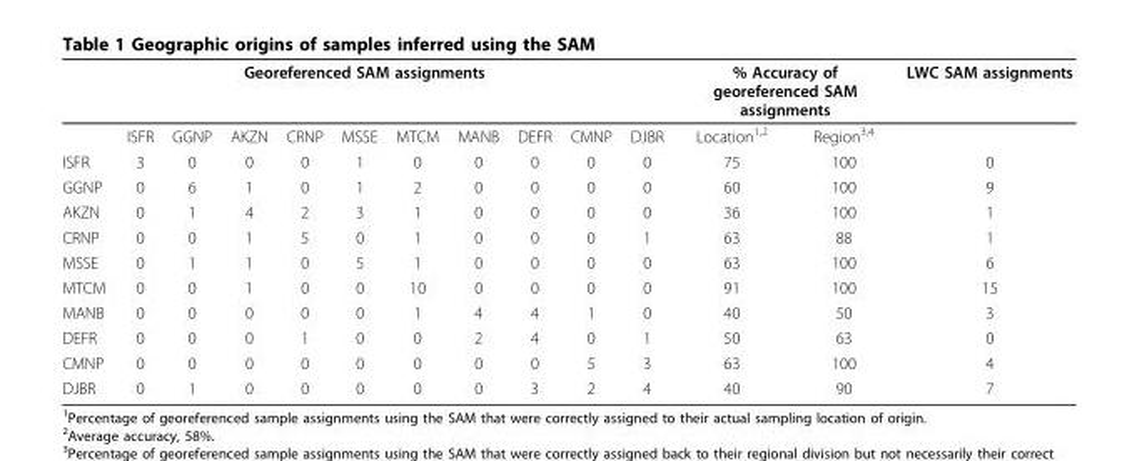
<table><thead><tr><td colspan="11">Georeferenced SAM assignments</td><td colspan="2">% Accuracy of georeferenced SAM assignments</td><td rowspan="2">LWC SAM assignments</td></tr><tr><td></td><td>ISFR</td><td>GGNP</td><td>AKZN</td><td>CRNP</td><td>MSSE</td><td>MTCM</td><td>MANB</td><td>DEFR</td><td>CMNP</td><td>DJBR</td><td>Location<sup>1,2</sup></td><td>Region<sup>3,4</sup></td></tr></thead><tbody><tr><td>ISFR</td><td>3</td><td>0</td><td>0</td><td>0</td><td>1</td><td>0</td><td>0</td><td>0</td><td>0</td><td>0</td><td>75</td><td>100</td><td>0</td></tr><tr><td>GGNP</td><td>0</td><td>6</td><td>1</td><td>0</td><td>1</td><td>2</td><td>0</td><td>0</td><td>0</td><td>0</td><td>60</td><td>100</td><td>9</td></tr><tr><td>AKZN</td><td>0</td><td>1</td><td>4</td><td>2</td><td>3</td><td>1</td><td>0</td><td>0</td><td>0</td><td>0</td><td>36</td><td>100</td><td>1</td></tr><tr><td>CRNP</td><td>0</td><td>0</td><td>1</td><td>5</td><td>0</td><td>1</td><td>0</td><td>0</td><td>0</td><td>1</td><td>63</td><td>88</td><td>1</td></tr><tr><td>MSSE</td><td>0</td><td>1</td><td>1</td><td>0</td><td>5</td><td>1</td><td>0</td><td>0</td><td>0</td><td>0</td><td>63</td><td>100</td><td>6</td></tr><tr><td>MTCM</td><td>0</td><td>0</td><td>1</td><td>0</td><td>0</td><td>10</td><td>0</td><td>0</td><td>0</td><td>0</td><td>91</td><td>100</td><td>15</td></tr><tr><td>MANB</td><td>0</td><td>0</td><td>0</td><td>0</td><td>0</td><td>1</td><td>4</td><td>4</td><td>1</td><td>0</td><td>40</td><td>50</td><td>3</td></tr><tr><td>DEFR</td><td>0</td><td>0</td><td>0</td><td>1</td><td>0</td><td>0</td><td>2</td><td>4</td><td>0</td><td>1</td><td>50</td><td>63</td><td>0</td></tr><tr><td>CMNP</td><td>0</td><td>0</td><td>0</td><td>0</td><td>0</td><td>0</td><td>0</td><td>0</td><td>5</td><td>3</td><td>63</td><td>100</td><td>4</td></tr><tr><td>DJBR</td><td>0</td><td>1</td><td>0</td><td>0</td><td>0</td><td>0</td><td>0</td><td>3</td><td>2</td><td>4</td><td>40</td><td>90</td><td>7</td></tr></tbody></table>